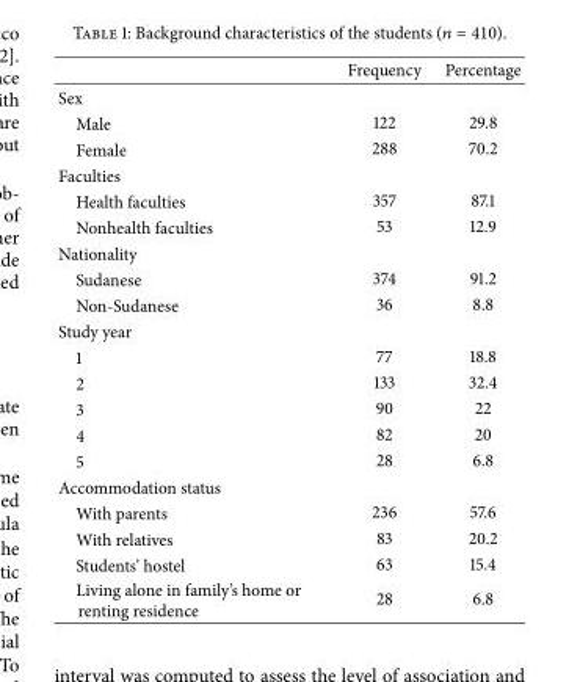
<table><thead><tr><td></td><td>Frequency</td><td>Percentage</td></tr></thead><tbody><tr><td colspan="3">Sex</td></tr><tr><td>Male</td><td>122</td><td>29.8</td></tr><tr><td>Female</td><td>288</td><td>70.2</td></tr><tr><td colspan="3">Faculties</td></tr><tr><td>Health faculties</td><td>357</td><td>87.1</td></tr><tr><td>Nonhealth faculties</td><td>53</td><td>12.9</td></tr><tr><td colspan="3">Nationality</td></tr><tr><td>Sudanese</td><td>374</td><td>91.2</td></tr><tr><td>Non-Sudanese</td><td>36</td><td>8.8</td></tr><tr><td colspan="3">Study year</td></tr><tr><td>1</td><td>77</td><td>18.8</td></tr><tr><td>2</td><td>133</td><td>32.4</td></tr><tr><td>3</td><td>90</td><td>22</td></tr><tr><td>4</td><td>82</td><td>20</td></tr><tr><td>5</td><td>28</td><td>6.8</td></tr><tr><td colspan="3">Accommodation status</td></tr><tr><td>With parents</td><td>236</td><td>57.6</td></tr><tr><td>With relatives</td><td>83</td><td>20.2</td></tr><tr><td>Students’ hostel</td><td>63</td><td>15.4</td></tr><tr><td>Living alone in family’s home or renting residence</td><td>28</td><td>6.8</td></tr></tbody></table>